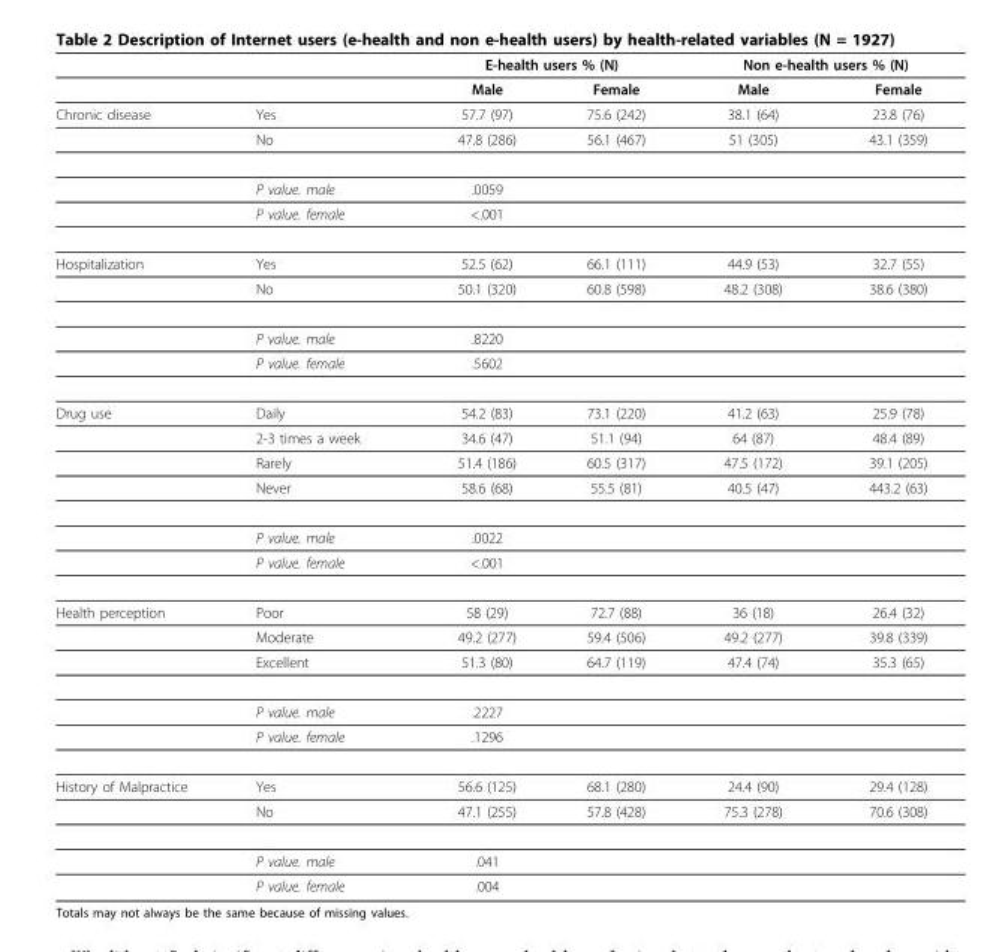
<table><thead><tr><td rowspan="2"></td><td rowspan="2"></td><td colspan="2">E-health users % (N)</td><td colspan="2">Non e-health users % (N)</td></tr><tr><td>Male</td><td>Female</td><td>Male</td><td>Female</td></tr></thead><tbody><tr><td rowspan="4">Chronic disease</td><td>Yes</td><td>57.7 (97)</td><td>75.6 (242)</td><td>38.1 (64)</td><td>23.8 (76)</td></tr><tr><td>No</td><td>47.8 (286)</td><td>56.1 (467)</td><td>51 (305)</td><td>43.1 (359)</td></tr><tr><td>P value. male</td><td>.0059</td><td></td><td></td><td></td></tr><tr><td>P value. female</td><td>&lt;.001</td><td></td><td></td><td></td></tr><tr><td rowspan="4">Hospitalization</td><td>Yes</td><td>52.5 (62)</td><td>66.1 (111)</td><td>44.9 (53)</td><td>32.7 (55)</td></tr><tr><td>No</td><td>50.1 (320)</td><td>60.8 (598)</td><td>48.2 (308)</td><td>38.6 (380)</td></tr><tr><td>P value. male</td><td>.8220</td><td></td><td></td><td></td></tr><tr><td>P value. female</td><td>.5602</td><td></td><td></td><td></td></tr><tr><td rowspan="6">Drug use</td><td>Daily</td><td>54.2 (83)</td><td>73.1 (220)</td><td>41.2 (63)</td><td>25.9 (78)</td></tr><tr><td>2-3 times a week</td><td>34.6 (47)</td><td>51.1 (94)</td><td>64 (87)</td><td>48.4 (89)</td></tr><tr><td>Rarely</td><td>51.4 (186)</td><td>60.5 (317)</td><td>47.5 (172)</td><td>39.1 (205)</td></tr><tr><td>Never</td><td>58.6 (68)</td><td>55.5 (81)</td><td>40.5 (47)</td><td>443.2 (63)</td></tr><tr><td>P value. male</td><td>.0022</td><td></td><td></td><td></td></tr><tr><td>P value. female</td><td>&lt;.001</td><td></td><td></td><td></td></tr><tr><td rowspan="5">Health perception</td><td>Poor</td><td>58 (29)</td><td>72.7 (88)</td><td>36 (18)</td><td>26.4 (32)</td></tr><tr><td>Moderate</td><td>49.2 (277)</td><td>59.4 (506)</td><td>49.2 (277)</td><td>39.8 (339)</td></tr><tr><td>Excellent</td><td>51.3 (80)</td><td>64.7 (119)</td><td>47.4 (74)</td><td>35.3 (65)</td></tr><tr><td>P value. male</td><td>.2227</td><td></td><td></td><td></td></tr><tr><td>P value. female</td><td>.1296</td><td></td><td></td><td></td></tr><tr><td rowspan="4">History of Malpractice</td><td>Yes</td><td>56.6 (125)</td><td>68.1 (280)</td><td>24.4 (90)</td><td>29.4 (128)</td></tr><tr><td>No</td><td>47.1 (255)</td><td>57.8 (428)</td><td>75.3 (278)</td><td>70.6 (308)</td></tr><tr><td>P value. male</td><td>.041</td><td></td><td></td><td></td></tr><tr><td>P value. female</td><td>.004</td><td></td><td></td><td></td></tr></tbody></table>